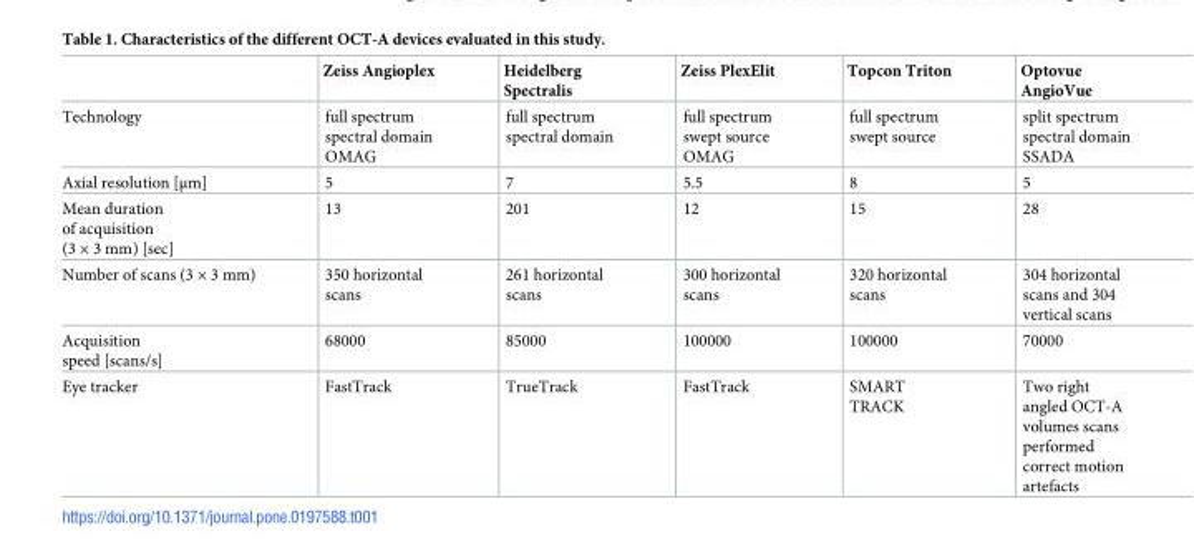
<table><thead><tr><td></td><td>Zeiss Angioplex</td><td>Heidelberg Spectralis</td><td>Zeiss PlexElit</td><td>Topcon Triton</td><td>Optovue AngioVue</td></tr></thead><tbody><tr><td>Technology</td><td>full spectrum spectral domain OMAG</td><td>full spectrum spectral domain</td><td>full spectrum swept source OMAG</td><td>full spectrum swept source</td><td>split spectrum spectral domain SSADA</td></tr><tr><td>Axial resolution [μm]</td><td>5</td><td>7</td><td>5.5</td><td>8</td><td>5</td></tr><tr><td>Mean duration of acquisition (3 × 3 mm) [sec]</td><td>13</td><td>201</td><td>12</td><td>15</td><td>28</td></tr><tr><td>Number of scans (3 × 3 mm)</td><td>350 horizontal scans</td><td>261 horizontal scans</td><td>300 horizontal scans</td><td>320 horizontal scans</td><td>304 horizontal scans and 304 vertical scans</td></tr><tr><td>Acquisition speed [scans/s]</td><td>68000</td><td>85000</td><td>100000</td><td>100000</td><td>70000</td></tr><tr><td>Eye tracker</td><td>FastTrack</td><td>TrueTrack</td><td>FastTrack</td><td>SMART TRACK</td><td>Two right angled OCT-A volumes scans performed correct motion artefacts</td></tr></tbody></table>